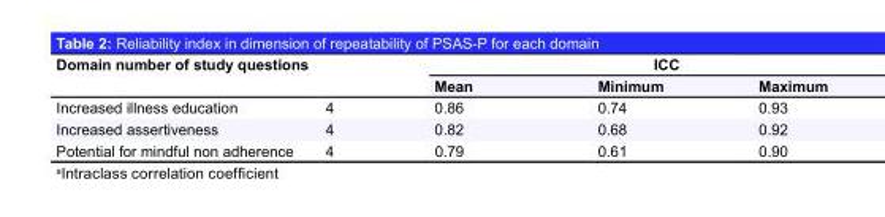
<table><thead><tr><td rowspan="2" colspan="2">Domain number of study questions</td><td colspan="3">ICC</td></tr><tr><td rowspan="2">Mean 0.86</td><td rowspan="2">Minimum 0.74</td><td rowspan="2">Maximum 0.93</td></tr><tr><td>Increased illness education</td><td>4</td></tr></thead><tbody><tr><td>Increased assertiveness</td><td>4</td><td>0.82</td><td>0.68</td><td>0.92</td></tr><tr><td>Potential for mindful non adherence</td><td>4</td><td>0.79</td><td>0.61</td><td>0.90</td></tr></tbody></table>